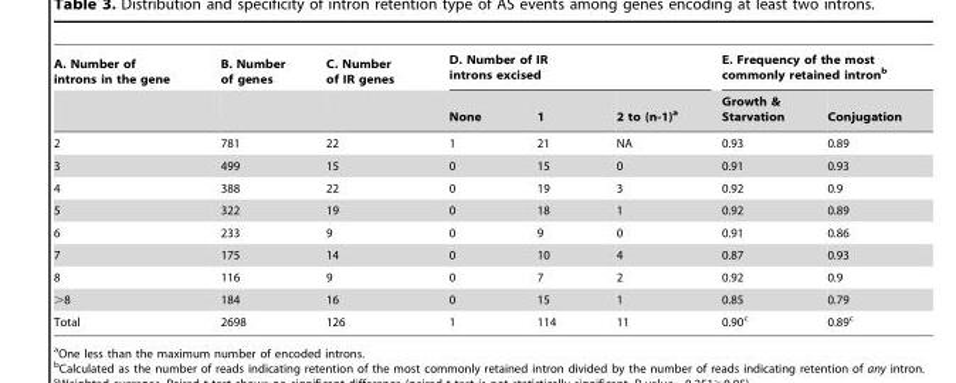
<table><thead><tr><td rowspan="2">A. Number of introns in the gene</td><td rowspan="2">B. Number of genes</td><td rowspan="2">C. Number of IR genes</td><td colspan="3">D. Number of IR introns excised</td><td colspan="2">E. Frequency of the most commonly retained intron<sup>b</sup></td></tr><tr><td>None</td><td>1</td><td>2 to (n-1)<sup>a</sup></td><td>Growth &amp; Starvation</td><td>Conjugation</td></tr></thead><tbody><tr><td>2</td><td>781</td><td>22</td><td>1</td><td>21</td><td>NA</td><td>0.93</td><td>0.89</td></tr><tr><td>3</td><td>499</td><td>15</td><td>0</td><td>15</td><td>0</td><td>0.91</td><td>0.93</td></tr><tr><td>4</td><td>388</td><td>22</td><td>0</td><td>19</td><td>3</td><td>0.92</td><td>0.9</td></tr><tr><td>5</td><td>322</td><td>19</td><td>0</td><td>18</td><td>1</td><td>0.92</td><td>0.89</td></tr><tr><td>6</td><td>233</td><td>9</td><td>0</td><td>9</td><td>0</td><td>0.91</td><td>0.86</td></tr><tr><td>7</td><td>175</td><td>14</td><td>0</td><td>10</td><td>4</td><td>0.87</td><td>0.93</td></tr><tr><td>8</td><td>116</td><td>9</td><td>0</td><td>7</td><td>2</td><td>0.92</td><td>0.9</td></tr><tr><td>&gt;8</td><td>184</td><td>16</td><td>0</td><td>15</td><td>1</td><td>0.85</td><td>0.79</td></tr><tr><td>Total</td><td>2698</td><td>126</td><td>1</td><td>114</td><td>11</td><td>0.90<sup>c</sup></td><td>0.89<sup>c</sup></td></tr></tbody></table>